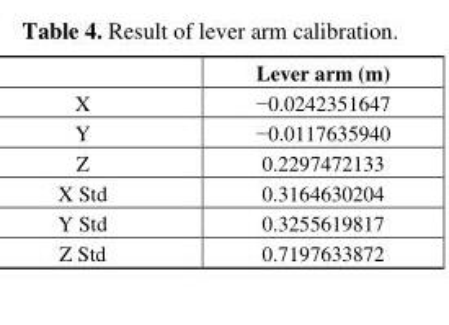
<table><thead><tr><td></td><td>Lever arm (m)</td></tr></thead><tbody><tr><td>X</td><td>−0.0242351647</td></tr><tr><td>Y</td><td>−0.0117635940</td></tr><tr><td>Z</td><td>0.2297472133</td></tr><tr><td>X Std</td><td>0.3164630204</td></tr><tr><td>Y Std</td><td>0.3255619817</td></tr><tr><td>Z Std</td><td>0.7197633872</td></tr></tbody></table>